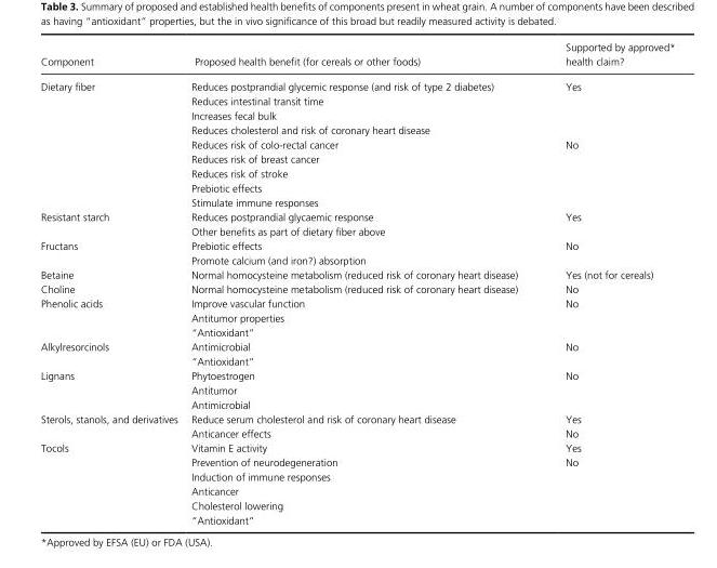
<table><thead><tr><td>Component</td><td>Proposed health benefit (for cereals or other foods)</td><td>Supported by approved* health claim?</td></tr></thead><tbody><tr><td rowspan="2">Dietary fiber</td><td>Reduces postprandial glycemic response (and risk of type 2 diabetes) Reduces intestinal transit time Increases fecal bulk Reduces cholesterol and risk of coronary heart disease</td><td>Yes</td></tr><tr><td>Reduces risk of colo- rectal cancer Reduces risk of breast cancer Reduces risk of stroke Prebiotic effects Stimulate immune responses</td><td>No</td></tr><tr><td>Resistant starch</td><td>Reduces postprandial glycaemic response Other benefits as part of dietary fiber above</td><td>Yes</td></tr><tr><td>Fructans</td><td>Prebiotic effects Promote calcium (and iron?) absorption</td><td>No</td></tr><tr><td>Betaine</td><td>Normal homocysteine metabolism (reduced risk of coronary heart disease)</td><td>Yes (not for cereals)</td></tr><tr><td>Choline</td><td>Normal homocysteine metabolism (reduced risk of coronary heart disease)</td><td>No</td></tr><tr><td>Phenolic acids</td><td>Improve vascular function Antitumor properties “Antioxidant”</td><td>No</td></tr><tr><td>Alkylresorcinols</td><td>Antimicrobial “Antioxidant”</td><td>No</td></tr><tr><td>Lignans</td><td>Phytoestrogen Antitumor Antimicrobial</td><td>No</td></tr><tr><td rowspan="2">Sterols, stanols, and derivatives</td><td>Reduce serum cholesterol and risk of coronary heart disease</td><td>Yes</td></tr><tr><td>Anticancer effects</td><td>No</td></tr><tr><td rowspan="2">Tocols</td><td>Vitamin E activity</td><td>Yes</td></tr><tr><td>Prevention of neurodegeneration Induction of immune responses Anticancer Cholesterol lowering “Antioxidant”</td><td>No</td></tr></tbody></table>